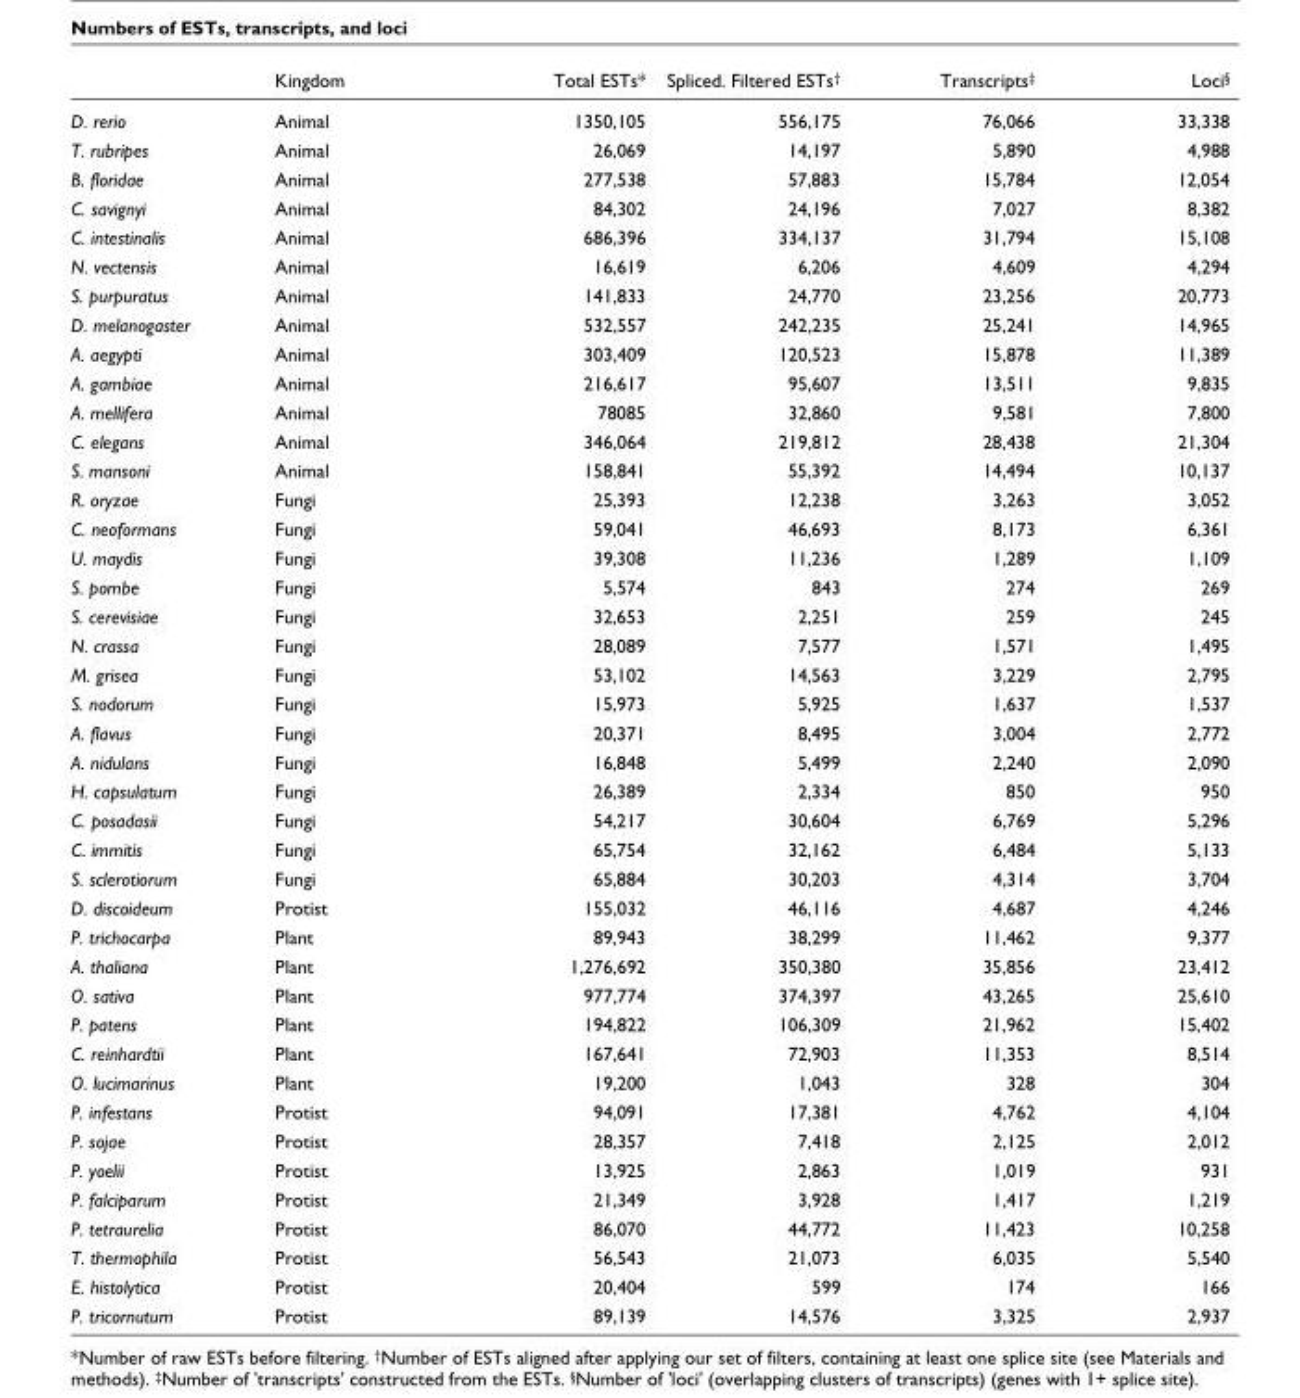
<table><thead><tr><td></td><td>Kingdom</td><td>Total ESTs*</td><td>Spliced. Filtered ESTs<sup>†</sup></td><td>Transcripts<sup>‡</sup></td><td>Loci<sup>§</sup></td></tr></thead><tbody><tr><td>D. rerio</td><td>Animal</td><td>1350,105</td><td>556,175</td><td>76,066</td><td>33,338</td></tr><tr><td>T. rubripes</td><td>Animal</td><td>26,069</td><td>14,197</td><td>5,890</td><td>4,988</td></tr><tr><td>B. floridae</td><td>Animal</td><td>277,538</td><td>57,883</td><td>15,784</td><td>12,054</td></tr><tr><td>C. savignyi</td><td>Animal</td><td>84,302</td><td>24,196</td><td>7,027</td><td>8,382</td></tr><tr><td>C. intestinalis</td><td>Animal</td><td>686,396</td><td>334,137</td><td>31,794</td><td>15,108</td></tr><tr><td>N. vectensis</td><td>Animal</td><td>16,619</td><td>6,206</td><td>4,609</td><td>4,294</td></tr><tr><td>S. purpuratus</td><td>Animal</td><td>141,833</td><td>24,770</td><td>23,256</td><td>20,773</td></tr><tr><td>D. melanogaster</td><td>Animal</td><td>532,557</td><td>242,235</td><td>25,241</td><td>14,965</td></tr><tr><td>A. aegypti</td><td>Animal</td><td>303,409</td><td>120,523</td><td>15,878</td><td>11,389</td></tr><tr><td>A. gambiae</td><td>Animal</td><td>216,617</td><td>95,607</td><td>13,511</td><td>9,835</td></tr><tr><td>A. mellifera</td><td>Animal</td><td>78085</td><td>32,860</td><td>9,581</td><td>7,800</td></tr><tr><td>C. elegans</td><td>Animal</td><td>346,064</td><td>219,812</td><td>28,438</td><td>21,304</td></tr><tr><td>S. mansoni</td><td>Animal</td><td>158,841</td><td>55,392</td><td>14,494</td><td>10,137</td></tr><tr><td>R. oryzae</td><td>Fungi</td><td>25,393</td><td>12,238</td><td>3,263</td><td>3,052</td></tr><tr><td>C. neoformans</td><td>Fungi</td><td>59,041</td><td>46,693</td><td>8,173</td><td>6,361</td></tr><tr><td>U. maydis</td><td>Fungi</td><td>39,308</td><td>11,236</td><td>1,289</td><td>1,109</td></tr><tr><td>S. pombe</td><td>Fungi</td><td>5,574</td><td>843</td><td>274</td><td>269</td></tr><tr><td>S. cerevisiae</td><td>Fungi</td><td>32,653</td><td>2,251</td><td>259</td><td>245</td></tr><tr><td>N. crassa</td><td>Fungi</td><td>28,089</td><td>7,577</td><td>1,571</td><td>1,495</td></tr><tr><td>M. grisea</td><td>Fungi</td><td>53,102</td><td>14,563</td><td>3,229</td><td>2,795</td></tr><tr><td>S. nodorum</td><td>Fungi</td><td>15,973</td><td>5,925</td><td>1,637</td><td>1,537</td></tr><tr><td>A. flavus</td><td>Fungi</td><td>20,371</td><td>8,495</td><td>3,004</td><td>2,772</td></tr><tr><td>A. nidulans</td><td>Fungi</td><td>16,848</td><td>5,499</td><td>2,240</td><td>2,090</td></tr><tr><td>H. capsulatum</td><td>Fungi</td><td>26,389</td><td>2,334</td><td>850</td><td>950</td></tr><tr><td>C. posadasii</td><td>Fungi</td><td>54,217</td><td>30,604</td><td>6,769</td><td>5,296</td></tr><tr><td>C. immitis</td><td>Fungi</td><td>65,754</td><td>32,162</td><td>6,484</td><td>5,133</td></tr><tr><td>S. sclerotiorum</td><td>Fungi</td><td>65,884</td><td>30,203</td><td>4,314</td><td>3,704</td></tr><tr><td>D. discoideum</td><td>Protist</td><td>155,032</td><td>46,116</td><td>4,687</td><td>4,246</td></tr><tr><td>P. trichocarpa</td><td>Plant</td><td>89,943</td><td>38,299</td><td>11,462</td><td>9,377</td></tr><tr><td>A. thaliana</td><td>Plant</td><td>1,276,692</td><td>350,380</td><td>35,856</td><td>23,412</td></tr><tr><td>O. sativa</td><td>Plant</td><td>977,774</td><td>374,397</td><td>43,265</td><td>25,610</td></tr><tr><td>P. patens</td><td>Plant</td><td>194,822</td><td>106,309</td><td>21,962</td><td>15,402</td></tr><tr><td>C. reinhardtii</td><td>Plant</td><td>167,641</td><td>72,903</td><td>11,353</td><td>8,514</td></tr><tr><td>O. lucimarinus</td><td>Plant</td><td>19,200</td><td>1,043</td><td>328</td><td>304</td></tr><tr><td>P. infestans</td><td>Protist</td><td>94,091</td><td>17,381</td><td>4,762</td><td>4,104</td></tr><tr><td>P. sojae</td><td>Protist</td><td>28,357</td><td>7,418</td><td>2,125</td><td>2,012</td></tr><tr><td>P. yoelii</td><td>Protist</td><td>13,925</td><td>2,863</td><td>1,019</td><td>931</td></tr><tr><td>P. falciparum</td><td>Protist</td><td>21,349</td><td>3,928</td><td>1,417</td><td>1,219</td></tr><tr><td>P. tetraurelia</td><td>Protist</td><td>86,070</td><td>44,772</td><td>11,423</td><td>10,258</td></tr><tr><td>T. thermophila</td><td>Protist</td><td>56,543</td><td>21,073</td><td>6,035</td><td>5,540</td></tr><tr><td>E. histolytica</td><td>Protist</td><td>20,404</td><td>599</td><td>174</td><td>166</td></tr><tr><td>P. tricornutum</td><td>Protist</td><td>89,139</td><td>14,576</td><td>3,325</td><td>2,937</td></tr></tbody></table>